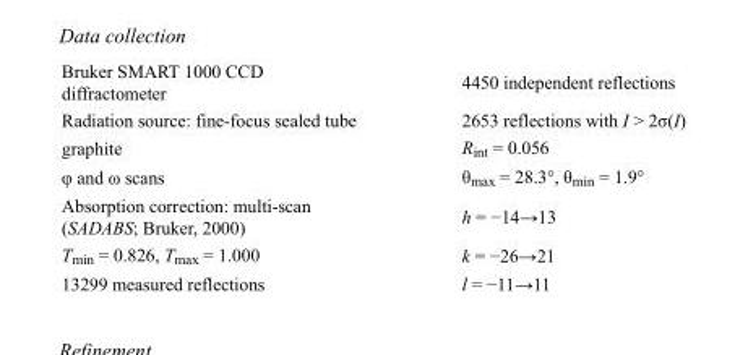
<table><tbody><tr><td>Bruker SMART 1000 CCD diffractometer</td><td>4450 independent reflections</td></tr><tr><td>Radiation source: fine-focus sealed tube</td><td>2653 reflections with I &gt; 2σ(I)</td></tr><tr><td>graphite</td><td>R<sub>int</sub> = 0.056</td></tr><tr><td>φ and ω scans</td><td>θ<sub>max</sub> = 28.3°, θ<sub>min</sub> = 1.9°</td></tr><tr><td>Absorption correction: multi-scan (SADABS; Bruker, 2000)</td><td>h = −14→13</td></tr><tr><td>T<sub>min</sub> = 0.826, T<sub>max</sub> = 1.000</td><td>k = −26→21</td></tr><tr><td>13299 measured reflections</td><td>l = −11→11</td></tr></tbody></table>